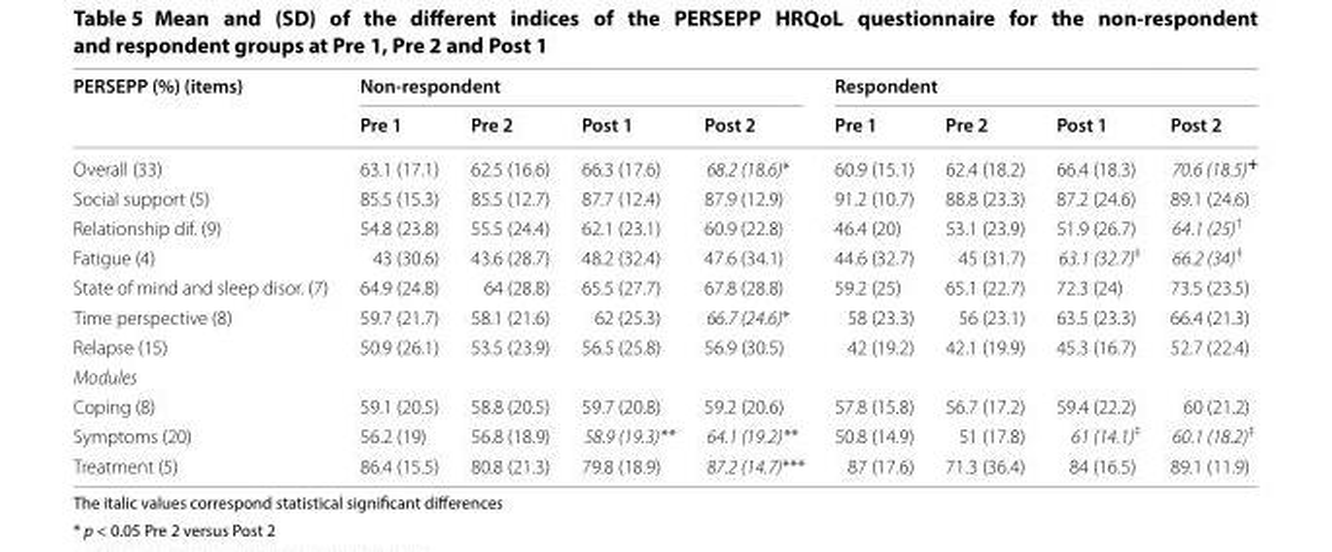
<table><thead><tr><td rowspan="2">PERSEPP (%) (items)</td><td colspan="4">Non-respondent</td><td colspan="4">Respondent</td></tr><tr><td>Pre 1</td><td>Pre 2</td><td>Post 1</td><td>Post 2</td><td>Pre 1</td><td>Pre 2</td><td>Post 1</td><td>Post 2</td></tr></thead><tbody><tr><td>Overall (33)</td><td>63.1 (17.1)</td><td>62.5 (16.6)</td><td>66.3 (17.6)</td><td>68.2 (18.6)*</td><td>60.9 (15.1)</td><td>62.4 (18.2)</td><td>66.4 (18.3)</td><td>70.6 (18.5)<sup>+</sup></td></tr><tr><td>Social support (5)</td><td>85.5 (15.3)</td><td>85.5 (12.7)</td><td>87.7 (12.4)</td><td>87.9 (12.9)</td><td>91.2 (10.7)</td><td>88.8 (23.3)</td><td>87.2 (24.6)</td><td>89.1 (24.6)</td></tr><tr><td>Relationship dif. (9)</td><td>54.8 (23.8)</td><td>55.5 (24.4)</td><td>62.1 (23.1)</td><td>60.9 (22.8)</td><td>46.4 (20)</td><td>53.1 (23.9)</td><td>51.9 (26.7)</td><td>64.1 (25)<sup>†</sup></td></tr><tr><td>Fatigue (4)</td><td>43 (30.6)</td><td>43.6 (28.7)</td><td>48.2 (32.4)</td><td>47.6 (34.1)</td><td>44.6 (32.7)</td><td>45 (31.7)</td><td>63.1 (32.7)<sup>‡</sup></td><td>66.2 (34)<sup>‡</sup></td></tr><tr><td>State of mind and sleep disor. (7)</td><td>64.9 (24.8)</td><td>64 (28.8)</td><td>65.5 (27.7)</td><td>67.8 (28.8)</td><td>59.2 (25)</td><td>65.1 (22.7)</td><td>72.3 (24)</td><td>73.5 (23.5)</td></tr><tr><td>Time perspective (8)</td><td>59.7 (21.7)</td><td>58.1 (21.6)</td><td>62 (25.3)</td><td>66.7 (24.6)*</td><td>58 (23.3)</td><td>56 (23.1)</td><td>63.5 (23.3)</td><td>66.4 (21.3)</td></tr><tr><td>Relapse (15)</td><td>50.9 (26.1)</td><td>53.5 (23.9)</td><td>56.5 (25.8)</td><td>56.9 (30.5)</td><td>42 (19.2)</td><td>42.1 (19.9)</td><td>45.3 (16.7)</td><td>52.7 (22.4)</td></tr><tr><td colspan="9">Modules</td></tr><tr><td>Coping (8)</td><td>59.1 (20.5)</td><td>58.8 (20.5)</td><td>59.7 (20.8)</td><td>59.2 (20.6)</td><td>57.8 (15.8)</td><td>56.7 (17.2)</td><td>59.4 (22.2)</td><td>60 (21.2)</td></tr><tr><td>Symptoms (20)</td><td>56.2 (19)</td><td>56.8 (18.9)</td><td>58.9 (19.3)**</td><td>64.1 (19.2)**</td><td>50.8 (14.9)</td><td>51 (17.8)</td><td>61 (14.1)<sup>‡</sup></td><td>60.1 (18.2)<sup>‡</sup></td></tr><tr><td>Treatment (5)</td><td>86.4 (15.5)</td><td>80.8 (21.3)</td><td>79.8 (18.9)</td><td>87.2 (14.7)***</td><td>87 (17.6)</td><td>71.3 (36.4)</td><td>84 (16.5)</td><td>89.1 (11.9)</td></tr></tbody></table>